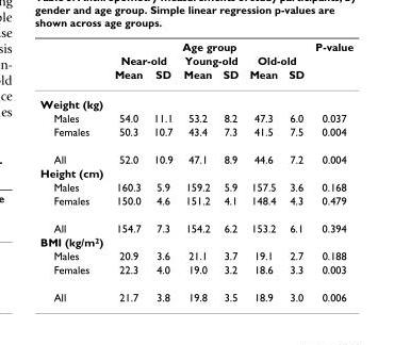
<table><thead><tr><td rowspan="3"></td><td colspan="6">Age group</td><td rowspan="3">P-value</td></tr><tr><td colspan="2">Near-old</td><td colspan="2">Young-old</td><td colspan="2">Old-old</td></tr><tr><td>Mean</td><td>SD</td><td>Mean</td><td>SD</td><td>Mean</td><td>SD</td></tr></thead><tbody><tr><td colspan="8">Weight (kg)</td></tr><tr><td>Males</td><td>54.0</td><td>11.1</td><td>53.2</td><td>8.2</td><td>47.3</td><td>6.0</td><td>0.037</td></tr><tr><td>Females</td><td>50.3</td><td>10.7</td><td>43.4</td><td>7.3</td><td>41.5</td><td>7.5</td><td>0.004</td></tr><tr><td>All</td><td>52.0</td><td>10.9</td><td>47.1</td><td>8.9</td><td>44.6</td><td>7.2</td><td>0.004</td></tr><tr><td colspan="8">Height (cm)</td></tr><tr><td>Males</td><td>160.3</td><td>5.9</td><td>159.2</td><td>5.9</td><td>157.5</td><td>3.6</td><td>0.168</td></tr><tr><td>Females</td><td>150.0</td><td>4.6</td><td>151.2</td><td>4.1</td><td>148.4</td><td>4.3</td><td>0.479</td></tr><tr><td>All</td><td>154.7</td><td>7.3</td><td>154.2</td><td>6.2</td><td>153.2</td><td>6.1</td><td>0.394</td></tr><tr><td colspan="8">BMI (kg/m<sup>2</sup>)</td></tr><tr><td>Males</td><td>20.9</td><td>3.6</td><td>21.1</td><td>3.7</td><td>19.1</td><td>2.7</td><td>0.188</td></tr><tr><td>Females</td><td>22.3</td><td>4.0</td><td>19.0</td><td>3.2</td><td>18.6</td><td>3.3</td><td>0.003</td></tr><tr><td>All</td><td>21.7</td><td>3.8</td><td>19.8</td><td>3.5</td><td>18.9</td><td>3.0</td><td>0.006</td></tr></tbody></table>